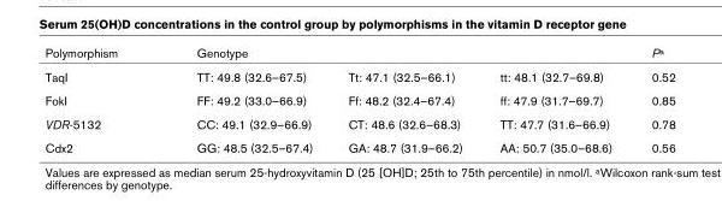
<table><thead><tr><td>Polymorphism</td><td>Genotype</td><td></td><td></td><td>P<sup>a</sup></td></tr></thead><tbody><tr><td>TaqI</td><td>TT: 49.8 (32.6–67.5)</td><td>Tt: 47.1 (32.5–66.1)</td><td>tt: 48.1 (32.7–69.8)</td><td>0.52</td></tr><tr><td>FokI</td><td>FF: 49.2 (33.0–66.9)</td><td>Ff: 48.2 (32.4–67.4)</td><td>ff: 47.9 (31.7–69.7)</td><td>0.85</td></tr><tr><td>VDR-5132</td><td>CC: 49.1 (32.9–66.9)</td><td>CT: 48.6 (32.6–68.3)</td><td>TT: 47.7 (31.6–66.9)</td><td>0.78</td></tr><tr><td>Cdx2</td><td>GG: 48.5 (32.5–67.4)</td><td>GA: 48.7 (31.9–66.2)</td><td>AA: 50.7 (35.0–68.6)</td><td>0.56</td></tr></tbody></table>